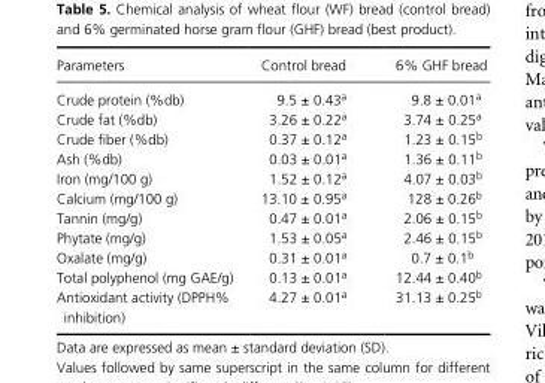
<table><thead><tr><td>Parameters</td><td>Control bread</td><td>6% GHF bread</td></tr></thead><tbody><tr><td>Crude protein (%db)</td><td>9.5 ± 0.43<sup>a</sup></td><td>9.8 ± 0.01<sup>a</sup></td></tr><tr><td>Crude fat (%db)</td><td>3.26 ± 0.22<sup>a</sup></td><td>3.74 ± 0.25<sup>a</sup></td></tr><tr><td>Crude fiber (%db)</td><td>0.37 ± 0.12<sup>a</sup></td><td>1.23 ± 0.15<sup>b</sup></td></tr><tr><td>Ash (%db)</td><td>0.03 ± 0.01<sup>a</sup></td><td>1.36 ± 0.11<sup>b</sup></td></tr><tr><td>Iron (mg/100 g)</td><td>1.52 ± 0.12<sup>a</sup></td><td>4.07 ± 0.03<sup>b</sup></td></tr><tr><td>Calcium (mg/100 g)</td><td>13.10 ± 0.95<sup>a</sup></td><td>128 ± 0.26<sup>b</sup></td></tr><tr><td>Tannin (mg/g)</td><td>0.47 ± 0.01<sup>a</sup></td><td>2.06 ± 0.15<sup>b</sup></td></tr><tr><td>Phytate (mg/g)</td><td>1.53 ± 0.05<sup>a</sup></td><td>2.46 ± 0.15<sup>b</sup></td></tr><tr><td>Oxalate (mg/g)</td><td>0.31 ± 0.01<sup>a</sup></td><td>0.7 ± 0.1<sup>b</sup></td></tr><tr><td>Total polyphenol (mg GAE/g)</td><td>0.13 ± 0.01<sup>a</sup></td><td>12.44 ± 0.40<sup>b</sup></td></tr><tr><td>Antioxidant activity (DPPH% inhibition)</td><td>4.27 ± 0.01<sup>a</sup></td><td>31.13 ± 0.25<sup>b</sup></td></tr></tbody></table>